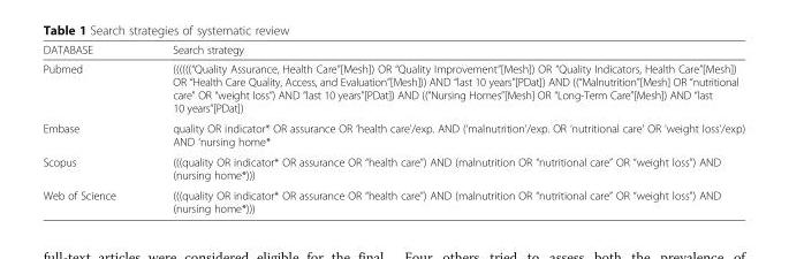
<table><thead><tr><td>DATABASE</td><td>Search strategy</td></tr></thead><tbody><tr><td>Pubmed</td><td>((((((“Quality Assurance, Health Care”[Mesh]) OR “Quality Improvement”[Mesh]) OR “Quality Indicators, Health Care”[Mesh]) OR “Health Care Quality, Access, and Evaluation”[Mesh])) AND “last 10 years”[PDat]) AND ((“Malnutrition”[Mesh] OR “nutritional care” OR “weight loss”) AND “last 10 years”[PDat]) AND ((“Nursing Homes”[Mesh] OR “Long-Term Care”[Mesh]) AND “last 10 years”[PDat])</td></tr><tr><td>Embase</td><td>quality OR indicator* OR assurance OR ‘health care’/exp. AND (‘malnutrition’/exp. OR ‘nutritional care’ OR ‘weight loss’/exp) AND ‘nursing home*</td></tr><tr><td>Scopus</td><td>(((quality OR indicator* OR assurance OR “health care”) AND (malnutrition OR “nutritional care” OR “weight loss”) AND (nursing home*)))</td></tr><tr><td>Web of Science</td><td>(((quality OR indicator* OR assurance OR “health care”) AND (malnutrition OR “nutritional care” OR “weight loss”) AND (nursing home*)))</td></tr></tbody></table>